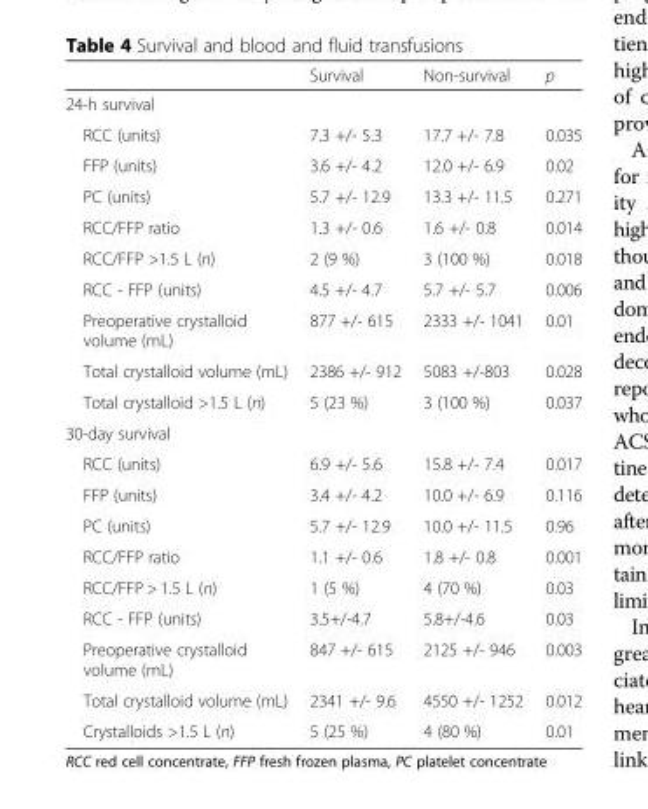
<table><thead><tr><td></td><td>Survival</td><td>Non-survival</td><td>p</td></tr></thead><tbody><tr><td colspan="4">24-h survival</td></tr><tr><td>RCC (units)</td><td>7.3 +/- 5.3</td><td>17.7 +/- 7.8</td><td>0.035</td></tr><tr><td>FFP (units)</td><td>3.6 +/- 4.2</td><td>12.0 +/- 6.9</td><td>0.02</td></tr><tr><td>PC (units)</td><td>5.7 +/- 12.9</td><td>13.3 +/- 11.5</td><td>0.271</td></tr><tr><td>RCC/FFP ratio</td><td>1.3 +/- 0.6</td><td>1.6 +/- 0.8</td><td>0.014</td></tr><tr><td>RCC/FFP &gt;1.5 L (n)</td><td>2 (9 %)</td><td>3 (100 %)</td><td>0.018</td></tr><tr><td>RCC - FFP (units)</td><td>4.5 +/- 4.7</td><td>5.7 +/- 5.7</td><td>0.006</td></tr><tr><td>Preoperative crystalloid volume (mL)</td><td>877 +/- 615</td><td>2333 +/- 1041</td><td>0.01</td></tr><tr><td>Total crystalloid volume (mL)</td><td>2386 +/- 912</td><td>5083 +/-803</td><td>0.028</td></tr><tr><td>Total crystalloid &gt;1.5 L (n)</td><td>5 (23 %)</td><td>3 (100 %)</td><td>0.037</td></tr><tr><td colspan="4">30-day survival</td></tr><tr><td>RCC (units)</td><td>6.9 +/- 5.6</td><td>15.8 +/- 7.4</td><td>0.017</td></tr><tr><td>FFP (units)</td><td>3.4 +/- 4.2</td><td>10.0 +/- 6.9</td><td>0.116</td></tr><tr><td>PC (units)</td><td>5.7 +/- 12.9</td><td>10.0 +/- 11.5</td><td>0.96</td></tr><tr><td>RCC/FFP ratio</td><td>1.1 +/- 0.6</td><td>1.8 +/- 0.8</td><td>0.001</td></tr><tr><td>RCC/FFP &gt; 1.5 L (n)</td><td>1 (5 %)</td><td>4 (70 %)</td><td>0.03</td></tr><tr><td>RCC - FFP (units)</td><td>3.5+/-4.7</td><td>5.8+/-4.6</td><td>0.03</td></tr><tr><td>Preoperative crystalloid volume (mL)</td><td>847 +/- 615</td><td>2125 +/- 946</td><td>0.003</td></tr><tr><td>Total crystalloid volume (mL)</td><td>2341 +/- 9.6</td><td>4550 +/- 1252</td><td>0.012</td></tr><tr><td>Crystalloids &gt;1.5 L (n)</td><td>5 (25 %)</td><td>4 (80 %)</td><td>0.01</td></tr></tbody></table>